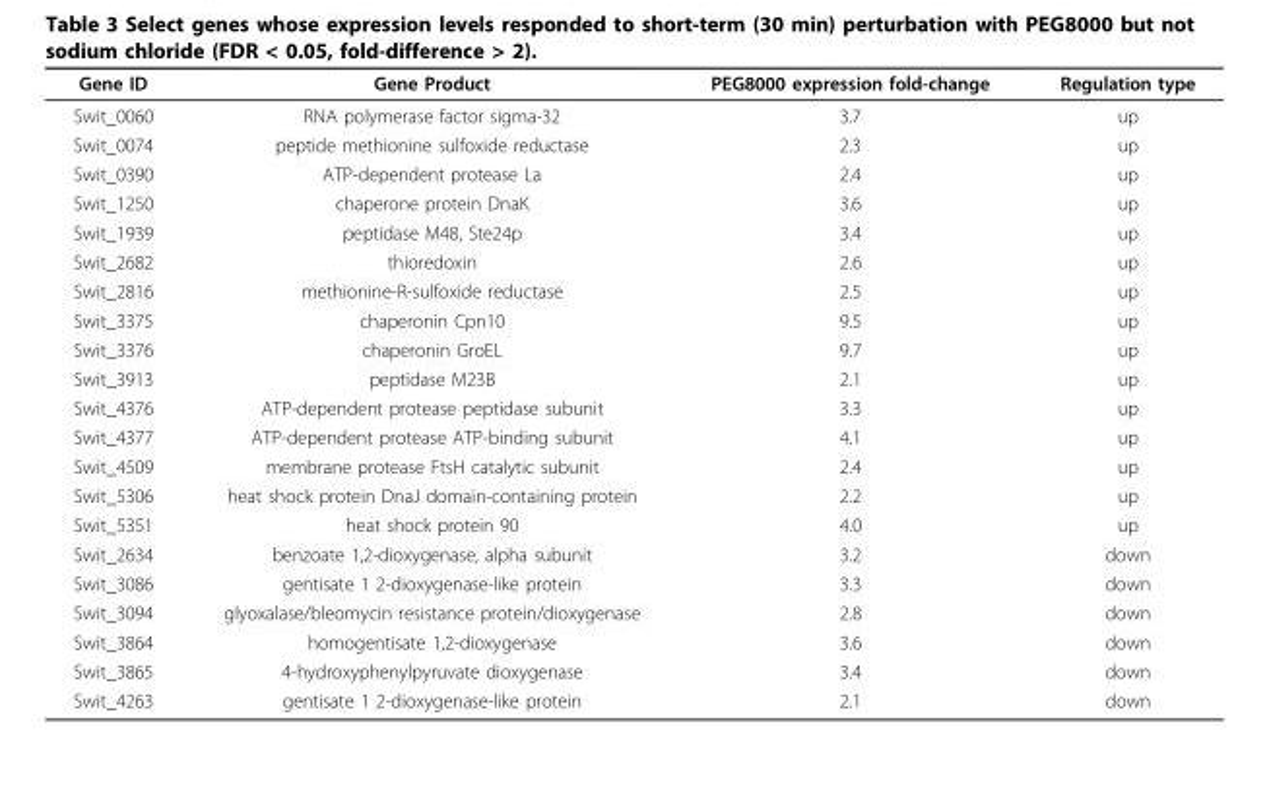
<table><thead><tr><td>Gene ID</td><td>Gene Product</td><td>PEG8000 expression fold-change</td><td>Regulation type</td></tr></thead><tbody><tr><td>Swit_0060</td><td>RNA polymerase factor sigma-32</td><td>3.7</td><td>up</td></tr><tr><td>Swit_0074</td><td>peptide methionine sulfoxide reductase</td><td>2.3</td><td>up</td></tr><tr><td>Swit_0390</td><td>ATP-dependent protease La</td><td>2.4</td><td>up</td></tr><tr><td>Swit_1250</td><td>chaperone protein DnaK</td><td>3.6</td><td>up</td></tr><tr><td>Swit_1939</td><td>peptidase M48, Ste24p</td><td>3.4</td><td>up</td></tr><tr><td>Swit_2682</td><td>thioredoxin</td><td>2.6</td><td>up</td></tr><tr><td>Swit_2816</td><td>methionine-R-sulfoxide reductase</td><td>2.5</td><td>up</td></tr><tr><td>Swit_3375</td><td>chaperonin Cpn10</td><td>9.5</td><td>up</td></tr><tr><td>Swit_3376</td><td>chaperonin GroEL</td><td>9.7</td><td>up</td></tr><tr><td>Swit_3913</td><td>peptidase M23B</td><td>2.1</td><td>up</td></tr><tr><td>Swit_4376</td><td>ATP-dependent protease peptidase subunit</td><td>3.3</td><td>up</td></tr><tr><td>Swit_4377</td><td>ATP-dependent protease ATP-binding subunit</td><td>4.1</td><td>up</td></tr><tr><td>Swit_4509</td><td>membrane protease FtsH catalytic subunit</td><td>2.4</td><td>up</td></tr><tr><td>Swit_5306</td><td>heat shock protein DnaJ domain-containing protein</td><td>2.2</td><td>up</td></tr><tr><td>Swit_5351</td><td>heat shock protein 90</td><td>4.0</td><td>up</td></tr><tr><td>Swit_2634</td><td>benzoate 1,2-dioxygenase, alpha subunit</td><td>3.2</td><td>down</td></tr><tr><td>Swit_3086</td><td>gentisate 1 2-dioxygenase-like protein</td><td>3.3</td><td>down</td></tr><tr><td>Swit_3094</td><td>glyoxalase/bleomycin resistance protein/dioxygenase</td><td>2.8</td><td>down</td></tr><tr><td>Swit_3864</td><td>homogentisate 1,2-dioxygenase</td><td>3.6</td><td>down</td></tr><tr><td>Swit_3865</td><td>4-hydroxyphenylpyruvate dioxygenase</td><td>3.4</td><td>down</td></tr><tr><td>Swit_4263</td><td>gentisate 1 2-dioxygenase-like protein</td><td>2.1</td><td>down</td></tr></tbody></table>